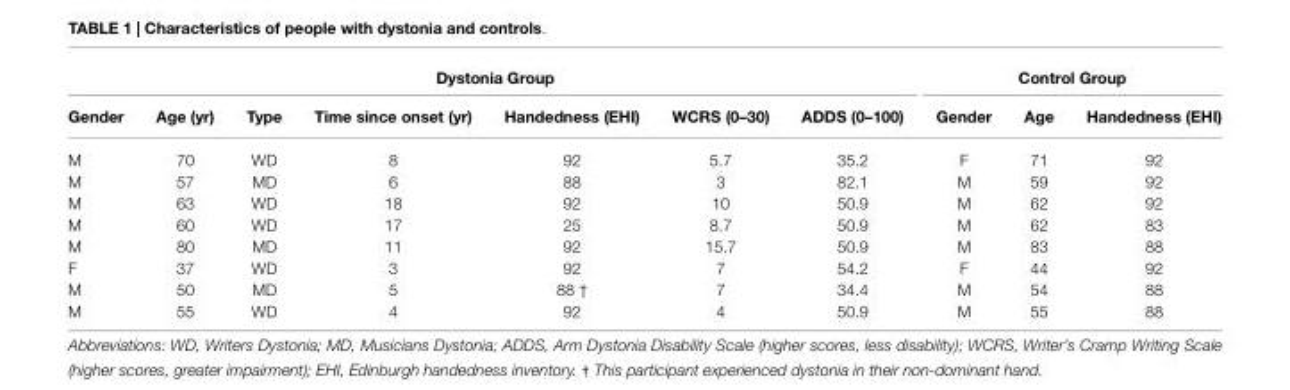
<table><thead><tr><td colspan="7">Dystonia Group</td><td colspan="3">Control Group</td></tr><tr><td>Gender</td><td>Age (yr)</td><td>Type</td><td>Time since onset (yr)</td><td>Handedness (EHI)</td><td>WCRS (0–30)</td><td>ADDS (0–100)</td><td>Gender</td><td>Age</td><td>Handedness (EHI)</td></tr></thead><tbody><tr><td>M</td><td>70</td><td>WD</td><td>8</td><td>92</td><td>5.7</td><td>35.2</td><td>F</td><td>71</td><td>92</td></tr><tr><td>M</td><td>57</td><td>MD</td><td>6</td><td>88</td><td>3</td><td>82.1</td><td>M</td><td>59</td><td>92</td></tr><tr><td>M</td><td>63</td><td>WD</td><td>18</td><td>92</td><td>10</td><td>50.9</td><td>M</td><td>62</td><td>92</td></tr><tr><td>M</td><td>60</td><td>WD</td><td>17</td><td>25</td><td>8.7</td><td>50.9</td><td>M</td><td>62</td><td>83</td></tr><tr><td>M</td><td>80</td><td>MD</td><td>11</td><td>92</td><td>15.7</td><td>50.9</td><td>M</td><td>83</td><td>88</td></tr><tr><td>F</td><td>37</td><td>WD</td><td>3</td><td>92</td><td>7</td><td>54.2</td><td>F</td><td>44</td><td>92</td></tr><tr><td>M</td><td>50</td><td>MD</td><td>5</td><td>88 †</td><td>7</td><td>34.4</td><td>M</td><td>54</td><td>88</td></tr><tr><td>M</td><td>55</td><td>WD</td><td>4</td><td>92</td><td>4</td><td>50.9</td><td>M</td><td>55</td><td>88</td></tr></tbody></table>